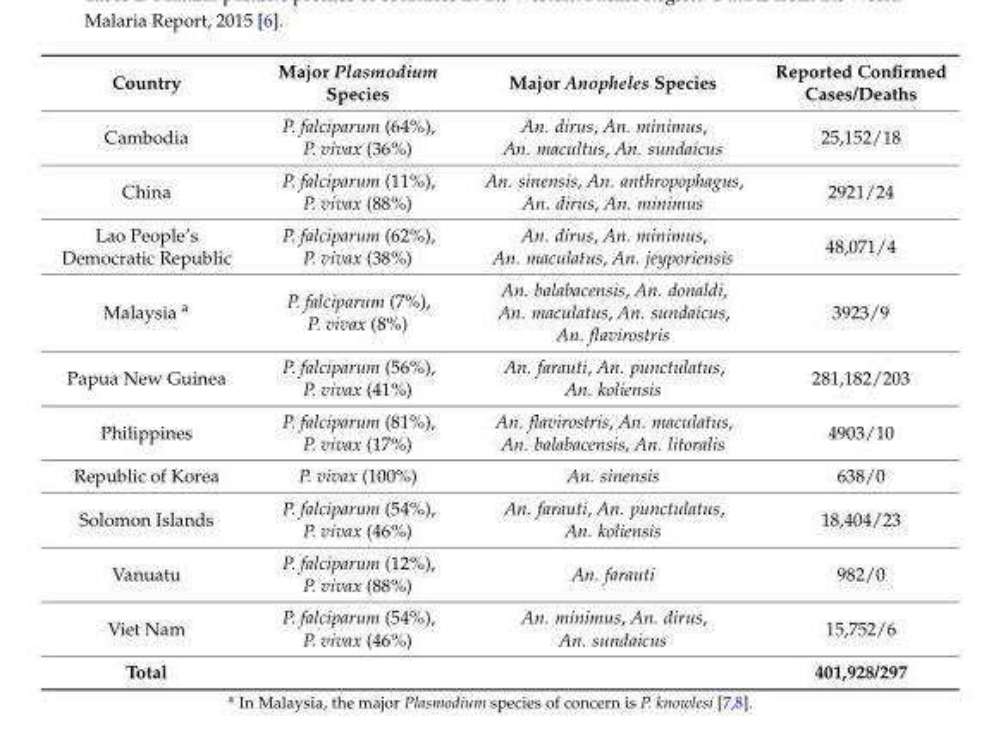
<table><thead><tr><td>Country</td><td>Major Plasmodium Species</td><td>Major Anopheles Species</td><td>Reported Confirmed Cases/Deaths</td></tr></thead><tbody><tr><td>Cambodia</td><td>P. falciparum (64%), P. vivax (36%)</td><td>An. dirus, An. minimus, An. macultus, An. sundaicus</td><td>25,152/18</td></tr><tr><td>China</td><td>P. falciparum (11%), P. vivax (88%)</td><td>An. sinensis, An. anthropophagus, An. dirus, An. minimus</td><td>2921/24</td></tr><tr><td>Lao People’s Democratic Republic</td><td>P. falciparum (62%), P. vivax (38%)</td><td>An. dirus, An. minimus, An. maculatus, An. jeyporiensis</td><td>48,071/4</td></tr><tr><td>Malaysia <sup>a</sup></td><td>P. falciparum (7%), P. vivax (8%)</td><td>An. balabacensis, An. donaldi, An. maculatus, An. sundaicus, An. flavirostris</td><td>3923/9</td></tr><tr><td>Papua New Guinea</td><td>P. falciparum (56%), P. vivax (41%)</td><td>An. farauti, An. punctulatus, An. koliensis</td><td>281,182/203</td></tr><tr><td>Philippines</td><td>P. falciparum (81%), P. vivax (17%)</td><td>An. flavirostris, An. maculatus, An. balabacensis, An. litoralis</td><td>4903/10</td></tr><tr><td>Republic of Korea</td><td>P. vivax (100%)</td><td>An. sinensis</td><td>638/0</td></tr><tr><td>Solomon Islands</td><td>P. falciparum (54%), P. vivax (46%)</td><td>An. farauti, An. punctulatus, An. koliensis</td><td>18,404/23</td></tr><tr><td>Vanuatu</td><td>P. falciparum (12%), P. vivax (88%)</td><td>An. farauti</td><td>982/0</td></tr><tr><td>Viet Nam</td><td>P. falciparum (54%), P. vivax (46%)</td><td>An. minimus, An. dirus, An. sundaicus</td><td>15,752/6</td></tr><tr><td>Total</td><td></td><td></td><td>401,928/297</td></tr></tbody></table>